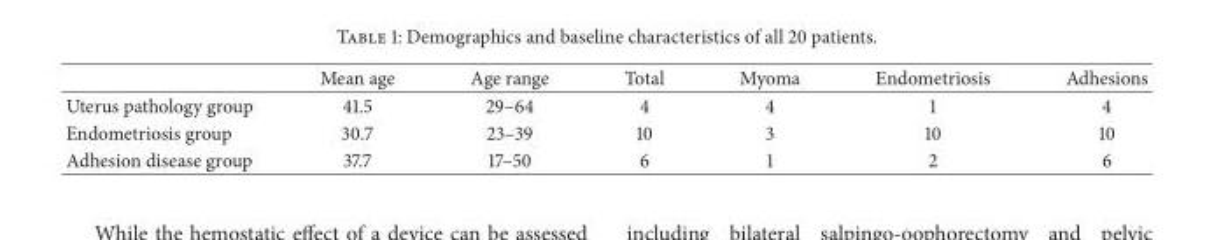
<table><thead><tr><td></td><td>Mean age</td><td>Age range</td><td>Total</td><td>Myoma</td><td>Endometriosis</td><td>Adhesions</td></tr></thead><tbody><tr><td>Uterus pathology group</td><td>41.5</td><td>29–64</td><td>4</td><td>4</td><td>1</td><td>4</td></tr><tr><td>Endometriosis group</td><td>30.7</td><td>23–39</td><td>10</td><td>3</td><td>10</td><td>10</td></tr><tr><td>Adhesion disease group</td><td>37.7</td><td>17–50</td><td>6</td><td>1</td><td>2</td><td>6</td></tr></tbody></table>